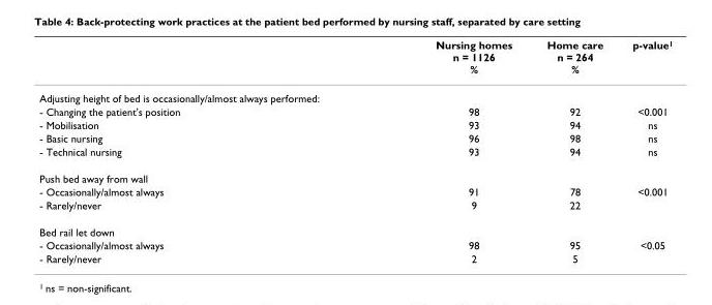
<table><thead><tr><td></td><td>Nursing homes n = 1126 %</td><td>Home care n = 264 %</td><td>p-value<sup>1</sup></td></tr></thead><tbody><tr><td colspan="4">Adjusting height of bed is occasionally/almost always performed:</td></tr><tr><td>- Changing the patient&#x27;s position</td><td>98</td><td>92</td><td>&lt;0.001</td></tr><tr><td>- Mobilisation</td><td>93</td><td>94</td><td>ns</td></tr><tr><td>- Basic nursing</td><td>96</td><td>98</td><td>ns</td></tr><tr><td>- Technical nursing</td><td>93</td><td>94</td><td>ns</td></tr><tr><td colspan="4">Push bed away from wall</td></tr><tr><td>- Occasionally/almost always</td><td>91</td><td>78</td><td>&lt;0.001</td></tr><tr><td>- Rarely/never</td><td>9</td><td>22</td><td></td></tr><tr><td colspan="4">Bed rail let down</td></tr><tr><td>- Occasionally/almost always</td><td>98</td><td>95</td><td>&lt;0.05</td></tr><tr><td>- Rarely/never</td><td>2</td><td>5</td><td></td></tr></tbody></table>